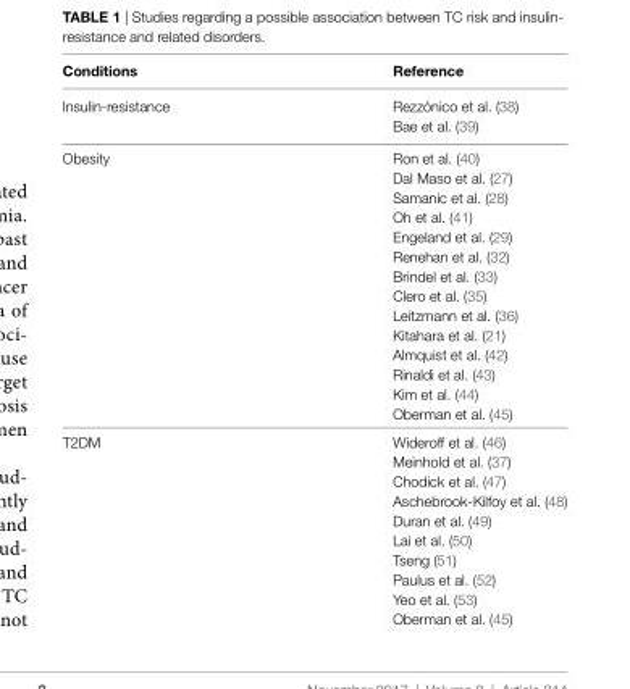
<table><thead><tr><td>Conditions</td><td>Reference</td></tr></thead><tbody><tr><td rowspan="2">Insulin-resistance</td><td>Rezzónico et al. (38)</td></tr><tr><td>Bae et al. (39)</td></tr><tr><td rowspan="14">Obesity</td><td>Ron et al. (40)</td></tr><tr><td>Dal Maso et al. (27)</td></tr><tr><td>Samanic et al. (28)</td></tr><tr><td>Oh et al. (41)</td></tr><tr><td>Engeland et al. (29)</td></tr><tr><td>Renehan et al. (32)</td></tr><tr><td>Brindel et al. (33)</td></tr><tr><td>Clero et al. (35)</td></tr><tr><td>Leitzmann et al. (36)</td></tr><tr><td>Kitahara et al. (21)</td></tr><tr><td>Almquist et al. (42)</td></tr><tr><td>Rinaldi et al. (43)</td></tr><tr><td>Kim et al. (44)</td></tr><tr><td>Oberman et al. (45)</td></tr><tr><td rowspan="10">T2DM</td><td>Wideroff et al. (46)</td></tr><tr><td>Meinhold et al. (37)</td></tr><tr><td>Chodick et al. (47)</td></tr><tr><td>Aschebrook-Kilfoy et al. (48)</td></tr><tr><td>Duran et al. (49)</td></tr><tr><td>Lai et al. (50)</td></tr><tr><td>Tseng (51)</td></tr><tr><td>Paulus et al. (52)</td></tr><tr><td>Yeo et al. (53)</td></tr><tr><td>Oberman et al. (45)</td></tr></tbody></table>